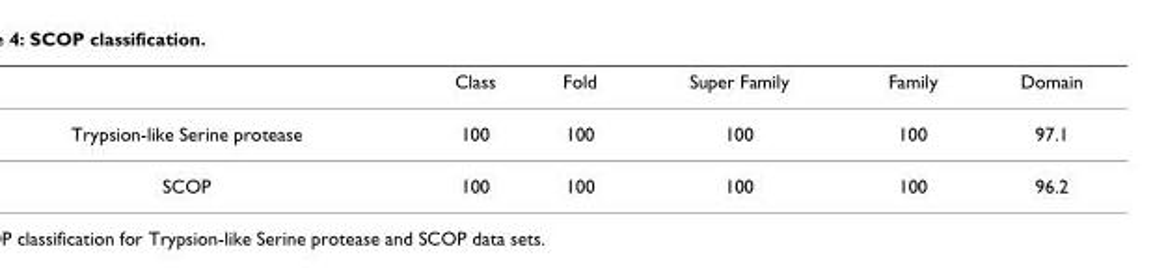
<table><thead><tr><td></td><td>Class</td><td>Fold</td><td>Super Family</td><td>Family</td><td>Domain</td></tr></thead><tbody><tr><td>Trypsion-like Serine protease</td><td>100</td><td>100</td><td>100</td><td>100</td><td>97.1</td></tr><tr><td>SCOP</td><td>100</td><td>100</td><td>100</td><td>100</td><td>96.2</td></tr></tbody></table>